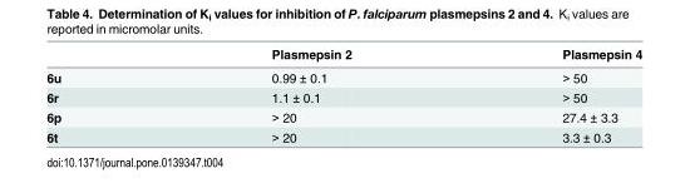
<table><thead><tr><td></td><td>Plasmepsin 2</td><td>Plasmepsin 4</td></tr></thead><tbody><tr><td>6u</td><td>0.99 ± 0.1</td><td>&gt; 50</td></tr><tr><td>6r</td><td>1.1 ± 0.1</td><td>&gt; 50</td></tr><tr><td>6p</td><td>&gt; 20</td><td>27.4 ± 3.3</td></tr><tr><td>6t</td><td>&gt; 20</td><td>3.3 ± 0.3</td></tr></tbody></table>